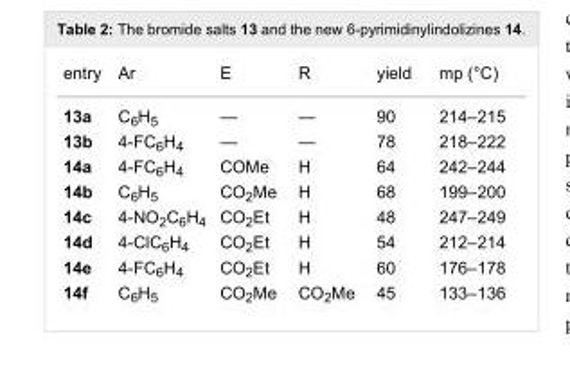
<table><tbody><tr><td>entry</td><td>Ar</td><td>E</td><td>R</td><td>yield</td><td>mp (°C)</td></tr><tr><td>13a</td><td>C<sub>6</sub>H<sub>5</sub></td><td>—</td><td>—</td><td>90</td><td>214–215</td></tr><tr><td>13b</td><td>4-FC<sub>6</sub>H<sub>4</sub></td><td>—</td><td>—</td><td>78</td><td>218–222</td></tr><tr><td>14a</td><td>4-FC<sub>6</sub>H<sub>4</sub></td><td>COMe</td><td>H</td><td>64</td><td>242–244</td></tr><tr><td>14b</td><td>C<sub>6</sub>H<sub>5</sub></td><td>CO<sub>2</sub>Me</td><td>H</td><td>68</td><td>199–200</td></tr><tr><td>14c</td><td>4-NO<sub>2</sub>C<sub>6</sub>H<sub>4</sub></td><td>CO<sub>2</sub>Et</td><td>H</td><td>48</td><td>247–249</td></tr><tr><td>14d</td><td>4-ClC<sub>6</sub>H<sub>4</sub></td><td>CO<sub>2</sub>Et</td><td>H</td><td>54</td><td>212–214</td></tr><tr><td>14e</td><td>4-FC<sub>6</sub>H<sub>4</sub></td><td>CO<sub>2</sub>Et</td><td>H</td><td>60</td><td>176–178</td></tr><tr><td>14f</td><td>C<sub>6</sub>H<sub>5</sub></td><td>CO<sub>2</sub>Me</td><td>CO<sub>2</sub>Me</td><td>45</td><td>133–136</td></tr></tbody></table>